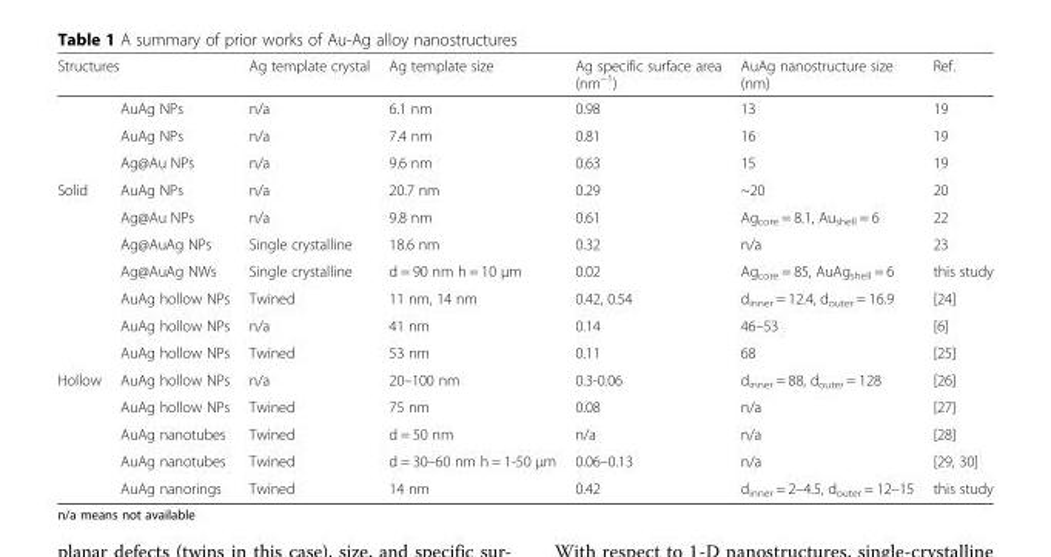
<table><thead><tr><td colspan="2">Structures</td><td rowspan="2">Ag template crystal n/a</td><td rowspan="2">Ag template size 6.1 nm</td><td rowspan="2">Ag specific surface area (nm<sup>−1</sup>) 0.98</td><td rowspan="2">AuAg nanostructure size (nm) 13</td><td rowspan="2">Ref. 19</td></tr><tr><td></td><td>AuAg NPs</td></tr></thead><tbody><tr><td></td><td>AuAg NPs</td><td>n/a</td><td>7.4 nm</td><td>0.81</td><td>16</td><td>19</td></tr><tr><td></td><td>Ag@Au NPs</td><td>n/a</td><td>9.6 nm</td><td>0.63</td><td>15</td><td>19</td></tr><tr><td rowspan="7">Solid</td><td>AuAg NPs</td><td>n/a</td><td>20.7 nm</td><td>0.29</td><td>~20</td><td>20</td></tr><tr><td>Ag@Au NPs</td><td>n/a</td><td>9.8 nm</td><td>0.61</td><td>Ag<sub>core</sub> = 8.1, Au<sub>shell</sub> = 6</td><td>22</td></tr><tr><td>Ag@AuAg NPs</td><td>Single crystalline</td><td>18.6 nm</td><td>0.32</td><td>n/a</td><td>23</td></tr><tr><td>Ag@AuAg NWs</td><td>Single crystalline</td><td>d = 90 nm h = 10 μm</td><td>0.02</td><td>Ag<sub>core</sub> = 85, AuAg<sub>shell</sub> = 6</td><td>this study</td></tr><tr><td>AuAg hollow NPs</td><td>Twined</td><td>11 nm, 14 nm</td><td>0.42, 0.54</td><td>d<sub>inner</sub> = 12.4, d<sub>outer</sub> = 16.9</td><td>[24]</td></tr><tr><td>AuAg hollow NPs</td><td>n/a</td><td>41 nm</td><td>0.14</td><td>46–53</td><td>[6]</td></tr><tr><td>AuAg hollow NPs</td><td>Twined</td><td>53 nm</td><td>0.11</td><td>68</td><td>[25]</td></tr><tr><td rowspan="5">Hollow</td><td>AuAg hollow NPs</td><td>n/a</td><td>20–100 nm</td><td>0.3-0.06</td><td>d<sub>inner</sub> = 88, d<sub>outer</sub> = 128</td><td>[26]</td></tr><tr><td>AuAg hollow NPs</td><td>Twined</td><td>75 nm</td><td>0.08</td><td>n/a</td><td>[27]</td></tr><tr><td>AuAg nanotubes</td><td>Twined</td><td>d = 50 nm</td><td>n/a</td><td>n/a</td><td>[28]</td></tr><tr><td>AuAg nanotubes</td><td>Twined</td><td>d = 30–60 nm h = 1-50 μm</td><td>0.06–0.13</td><td>n/a</td><td>[29, 30]</td></tr><tr><td>AuAg nanorings</td><td>Twined</td><td>14 nm</td><td>0.42</td><td>d<sub>inner</sub> = 2–4.5, d<sub>outer</sub> = 12–15</td><td>this study</td></tr></tbody></table>